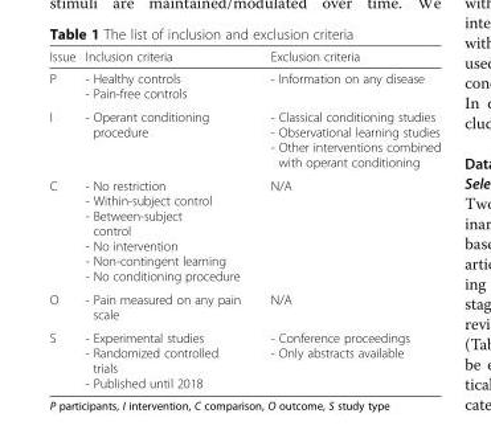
<table><thead><tr><td>Issue</td><td>Inclusion criteria</td><td>Exclusion criteria</td></tr></thead><tbody><tr><td>P</td><td>- Healthy controls - Pain-free controls</td><td>- Information on any disease</td></tr><tr><td>I</td><td>- Operant conditioning procedure</td><td>- Classical conditioning studies - Observational learning studies - Other interventions combined with operant conditioning</td></tr><tr><td>C</td><td>- No restriction - Within-subject control - Between-subject control - No intervention - Non-contingent learning - No conditioning procedure</td><td>N/A</td></tr><tr><td>O</td><td>- Pain measured on any pain scale</td><td>N/A</td></tr><tr><td>S</td><td>- Experimental studies - Randomized controlled trials - Published until 2018</td><td>- Conference proceedings - Only abstracts available</td></tr></tbody></table>